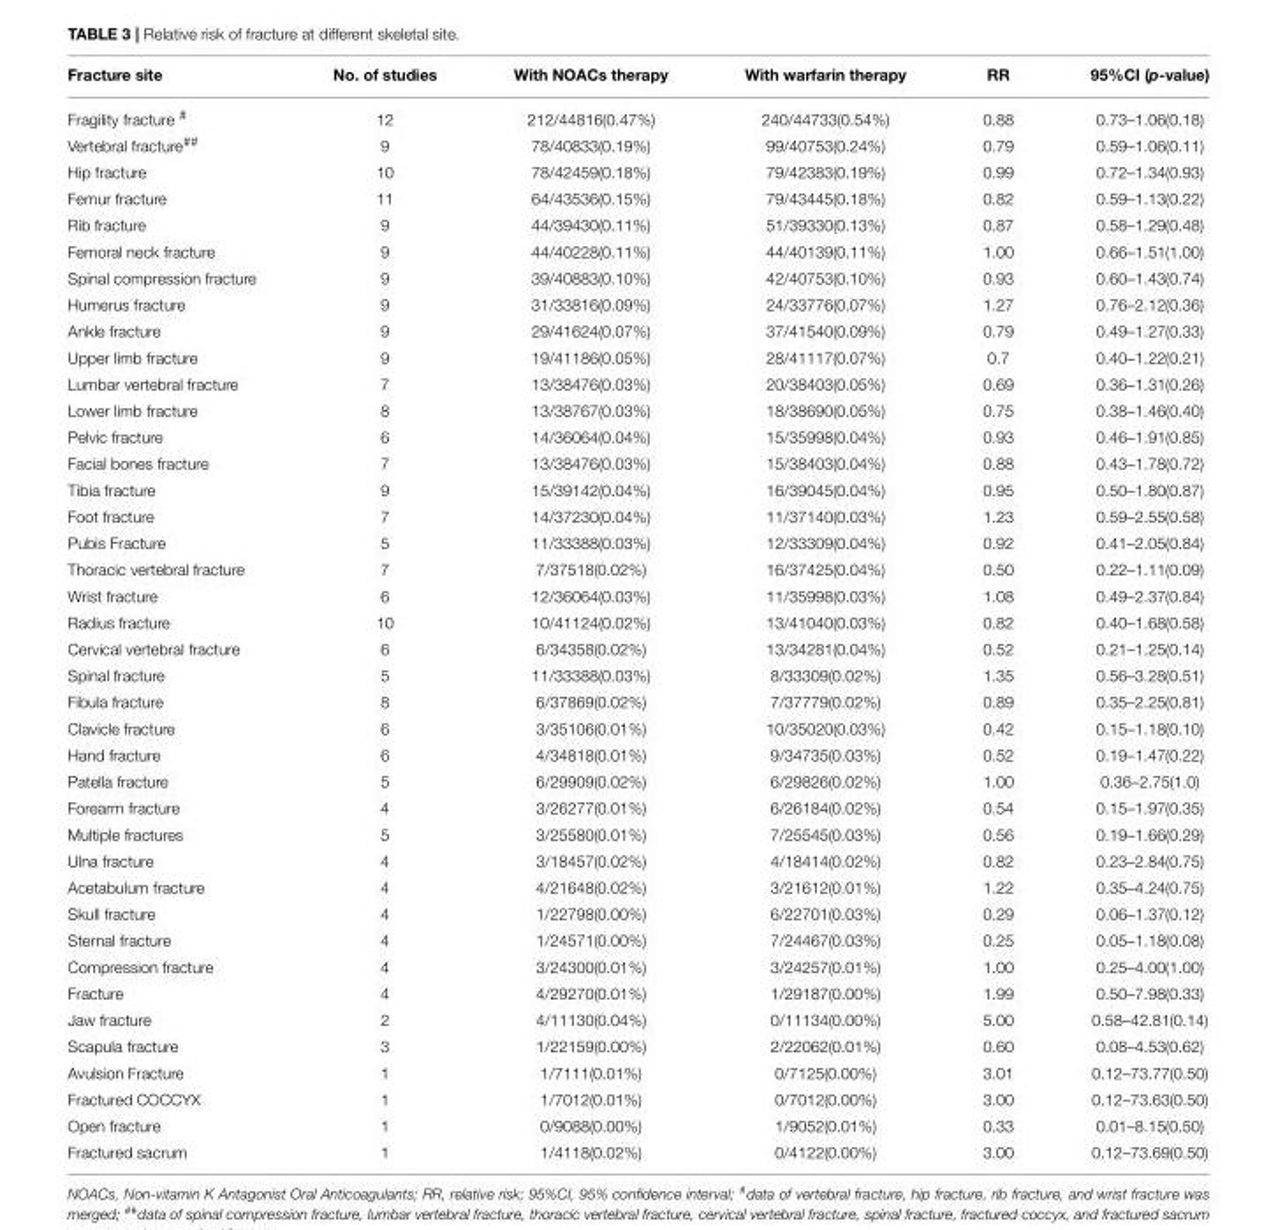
<table><thead><tr><td>Fracture site</td><td>No. of studies</td><td>With NOACs therapy</td><td>With warfarin therapy</td><td>RR</td><td>95%CI (p-value)</td></tr></thead><tbody><tr><td>Fragility fracture <sup>#</sup></td><td>12</td><td>212/44816(0.47%)</td><td>240/44733(0.54%)</td><td>0.88</td><td>0.73–1.06(0.18)</td></tr><tr><td>Vertebral fracture<sup>##</sup></td><td>9</td><td>78/40833(0.19%)</td><td>99/40753(0.24%)</td><td>0.79</td><td>0.59–1.06(0.11)</td></tr><tr><td>Hip fracture</td><td>10</td><td>78/42459(0.18%)</td><td>79/42383(0.19%)</td><td>0.99</td><td>0.72–1.34(0.93)</td></tr><tr><td>Femur fracture</td><td>11</td><td>64/43536(0.15%)</td><td>79/43445(0.18%)</td><td>0.82</td><td>0.59–1.13(0.22)</td></tr><tr><td>Rib fracture</td><td>9</td><td>44/39430(0.11%)</td><td>51/39330(0.13%)</td><td>0.87</td><td>0.58–1.29(0.48)</td></tr><tr><td>Femoral neck fracture</td><td>9</td><td>44/40228(0.11%)</td><td>44/40139(0.11%)</td><td>1.00</td><td>0.66–1.51(1.00)</td></tr><tr><td>Spinal compression fracture</td><td>9</td><td>39/40883(0.10%)</td><td>42/40753(0.10%)</td><td>0.93</td><td>0.60–1.43(0.74)</td></tr><tr><td>Humerus fracture</td><td>9</td><td>31/33816(0.09%)</td><td>24/33776(0.07%)</td><td>1.27</td><td>0.76–2.12(0.36)</td></tr><tr><td>Ankle fracture</td><td>9</td><td>29/41624(0.07%)</td><td>37/41540(0.09%)</td><td>0.79</td><td>0.49–1.27(0.33)</td></tr><tr><td>Upper limb fracture</td><td>9</td><td>19/41186(0.05%)</td><td>28/41117(0.07%)</td><td>0.7</td><td>0.40–1.22(0.21)</td></tr><tr><td>Lumbar vertebral fracture</td><td>7</td><td>13/38476(0.03%)</td><td>20/38403(0.05%)</td><td>0.69</td><td>0.36–1.31(0.26)</td></tr><tr><td>Lower limb fracture</td><td>8</td><td>13/38767(0.03%)</td><td>18/38690(0.05%)</td><td>0.75</td><td>0.38–1.46(0.40)</td></tr><tr><td>Pelvic fracture</td><td>6</td><td>14/36064(0.04%)</td><td>15/35998(0.04%)</td><td>0.93</td><td>0.46–1.91(0.85)</td></tr><tr><td>Facial bones fracture</td><td>7</td><td>13/38476(0.03%)</td><td>15/38403(0.04%)</td><td>0.88</td><td>0.43–1.78(0.72)</td></tr><tr><td>Tibia fracture</td><td>9</td><td>15/39142(0.04%)</td><td>16/39045(0.04%)</td><td>0.95</td><td>0.50–1.80(0.87)</td></tr><tr><td>Foot fracture</td><td>7</td><td>14/37230(0.04%)</td><td>11/37140(0.03%)</td><td>1.23</td><td>0.59–2.55(0.58)</td></tr><tr><td>Pubis Fracture</td><td>5</td><td>11/33388(0.03%)</td><td>12/33309(0.04%)</td><td>0.92</td><td>0.41–2.05(0.84)</td></tr><tr><td>Thoracic vertebral fracture</td><td>7</td><td>7/37518(0.02%)</td><td>16/37425(0.04%)</td><td>0.50</td><td>0.22–1.11(0.09)</td></tr><tr><td>Wrist fracture</td><td>6</td><td>12/36064(0.03%)</td><td>11/35998(0.03%)</td><td>1.08</td><td>0.49–2.37(0.84)</td></tr><tr><td>Radius fracture</td><td>10</td><td>10/41124(0.02%)</td><td>13/41040(0.03%)</td><td>0.82</td><td>0.40–1.68(0.58)</td></tr><tr><td>Cervical vertebral fracture</td><td>6</td><td>6/34358(0.02%)</td><td>13/34281(0.04%)</td><td>0.52</td><td>0.21–1.25(0.14)</td></tr><tr><td>Spinal fracture</td><td>5</td><td>11/33388(0.03%)</td><td>8/33309(0.02%)</td><td>1.35</td><td>0.56–3.28(0.51)</td></tr><tr><td>Fibula fracture</td><td>8</td><td>6/37869(0.02%)</td><td>7/37779(0.02%)</td><td>0.89</td><td>0.35–2.25(0.81)</td></tr><tr><td>Clavicle fracture</td><td>6</td><td>3/35106(0.01%)</td><td>10/35020(0.03%)</td><td>0.42</td><td>0.15–1.18(0.10)</td></tr><tr><td>Hand fracture</td><td>6</td><td>4/34818(0.01%)</td><td>9/34735(0.03%)</td><td>0.52</td><td>0.19–1.47(0.22)</td></tr><tr><td>Patella fracture</td><td>5</td><td>6/29909(0.02%)</td><td>6/29826(0.02%)</td><td>1.00</td><td>0.36–2.75(1.0)</td></tr><tr><td>Forearm fracture</td><td>4</td><td>3/26277(0.01%)</td><td>6/26184(0.02%)</td><td>0.54</td><td>0.15–1.97(0.35)</td></tr><tr><td>Multiple fractures</td><td>5</td><td>3/25580(0.01%)</td><td>7/25545(0.03%)</td><td>0.56</td><td>0.19–1.66(0.29)</td></tr><tr><td>Ulna fracture</td><td>4</td><td>3/18457(0.02%)</td><td>4/18414(0.02%)</td><td>0.82</td><td>0.23–2.84(0.75)</td></tr><tr><td>Acetabulum fracture</td><td>4</td><td>4/21648(0.02%)</td><td>3/21612(0.01%)</td><td>1.22</td><td>0.35–4.24(0.75)</td></tr><tr><td>Skull fracture</td><td>4</td><td>1/22798(0.00%)</td><td>6/22701(0.03%)</td><td>0.29</td><td>0.06–1.37(0.12)</td></tr><tr><td>Sternal fracture</td><td>4</td><td>1/24571(0.00%)</td><td>7/24467(0.03%)</td><td>0.25</td><td>0.05–1.18(0.08)</td></tr><tr><td>Compression fracture</td><td>4</td><td>3/24300(0.01%)</td><td>3/24257(0.01%)</td><td>1.00</td><td>0.25–4.00(1.00)</td></tr><tr><td>Fracture</td><td>4</td><td>4/29270(0.01%)</td><td>1/29187(0.00%)</td><td>1.99</td><td>0.50–7.98(0.33)</td></tr><tr><td>Jaw fracture</td><td>2</td><td>4/11130(0.04%)</td><td>0/11134(0.00%)</td><td>5.00</td><td>0.58–42.81(0.14)</td></tr><tr><td>Scapula fracture</td><td>3</td><td>1/22159(0.00%)</td><td>2/22062(0.01%)</td><td>0.60</td><td>0.08–4.53(0.62)</td></tr><tr><td>Avulsion Fracture</td><td>1</td><td>1/7111(0.01%)</td><td>0/7125(0.00%)</td><td>3.01</td><td>0.12–73.77(0.50)</td></tr><tr><td>Fractured COCCYX</td><td>1</td><td>1/7012(0.01%)</td><td>0/7012(0.00%)</td><td>3.00</td><td>0.12–73.63(0.50)</td></tr><tr><td>Open fracture</td><td>1</td><td>0/9088(0.00%)</td><td>1/9052(0.01%)</td><td>0.33</td><td>0.01–8.15(0.50)</td></tr><tr><td>Fractured sacrum</td><td>1</td><td>1/4118(0.02%)</td><td>0/4122(0.00%)</td><td>3.00</td><td>0.12–73.69(0.50)</td></tr></tbody></table>